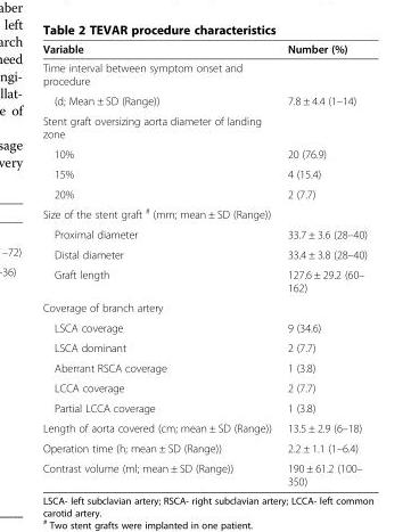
<table><thead><tr><td>Variable</td><td>Number (%)</td></tr></thead><tbody><tr><td colspan="2">Time interval between symptom onset and procedure</td></tr><tr><td>(d; Mean ± SD (Range))</td><td>7.8 ± 4.4 (1–14)</td></tr><tr><td colspan="2">Stent graft oversizing aorta diameter of landing zone</td></tr><tr><td>10%</td><td>20 (76.9)</td></tr><tr><td>15%</td><td>4 (15.4)</td></tr><tr><td>20%</td><td>2 (7.7)</td></tr><tr><td colspan="2">Size of the stent graft <sup>#</sup> (mm; mean ± SD (Range))</td></tr><tr><td>Proximal diameter</td><td>33.7 ± 3.6 (28–40)</td></tr><tr><td>Distal diameter</td><td>33.4 ± 3.8 (28–40)</td></tr><tr><td>Graft length</td><td>127.6 ± 29.2 (60– 162)</td></tr><tr><td colspan="2">Coverage of branch artery</td></tr><tr><td>LSCA coverage</td><td>9 (34.6)</td></tr><tr><td>LSCA dominant</td><td>2 (7.7)</td></tr><tr><td>Aberrant RSCA coverage</td><td>1 (3.8)</td></tr><tr><td>LCCA coverage</td><td>2 (7.7)</td></tr><tr><td>Partial LCCA coverage</td><td>1 (3.8)</td></tr><tr><td>Length of aorta covered (cm; mean ± SD (Range))</td><td>13.5 ± 2.9 (6–18)</td></tr><tr><td>Operation time (h; mean ± SD (Range))</td><td>2.2 ± 1.1 (1–6.4)</td></tr><tr><td>Contrast volume (ml; mean ± SD (Range))</td><td>190 ± 61.2 (100– 350)</td></tr></tbody></table>